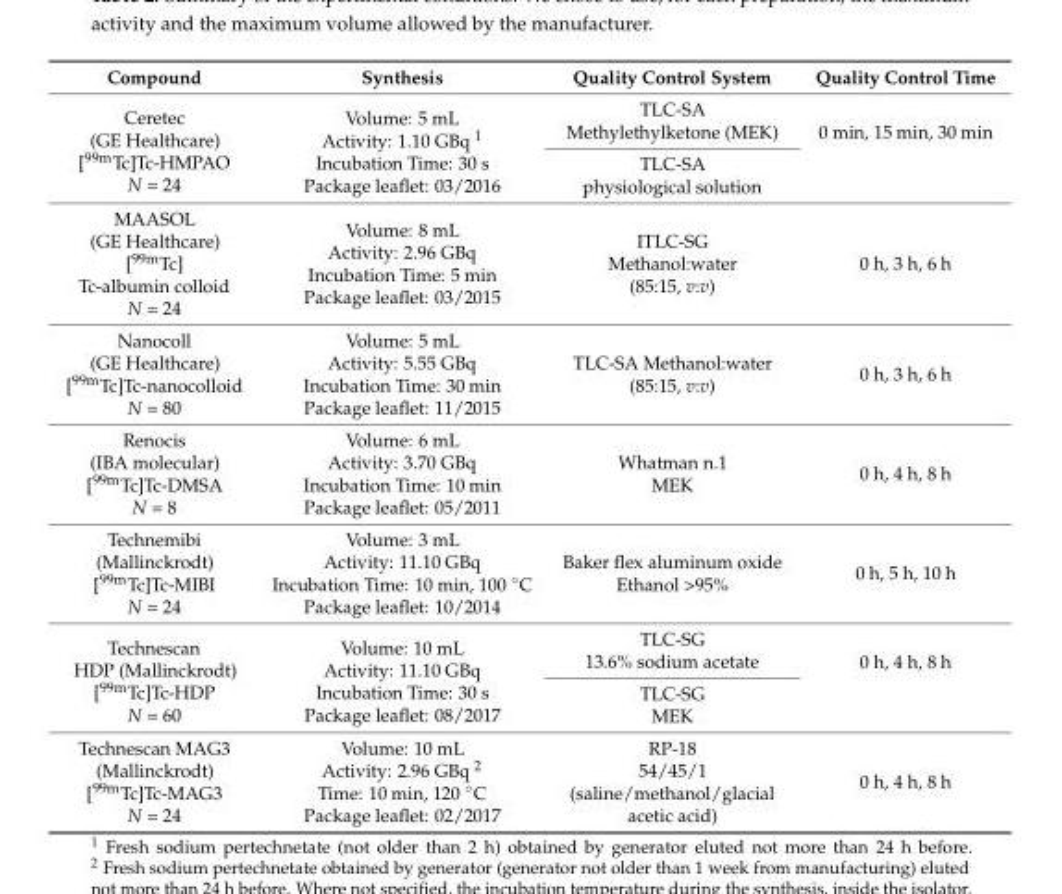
<table><thead><tr><td>Compound</td><td>Synthesis</td><td>Quality Control System</td><td>Quality Control Time</td></tr></thead><tbody><tr><td rowspan="2">Ceretec (GE Healthcare) [<sup>99m</sup>Tc]Tc-HMPAO N = 24</td><td rowspan="2">Volume: 5 mL Activity: 1.10 GBq <sup>1</sup> Incubation Time: 30 s Package leaflet: 03/2016</td><td>TLC-SA Methylethylketone (MEK)</td><td rowspan="2">0 min, 15 min, 30 min</td></tr><tr><td>TLC-SA physiological solution</td></tr><tr><td>MAASOL (GE Healthcare) [<sup>99m</sup>Tc] Tc-albumin colloid N = 24</td><td>Volume: 8 mL Activity: 2.96 GBq Incubation Time: 5 min Package leaflet: 03/2015</td><td>ITLC-SG Methanol:water (85:15, v:v)</td><td>0 h, 3 h, 6 h</td></tr><tr><td>Nanocoll (GE Healthcare) [<sup>99m</sup>Tc]Tc-nanocolloid N = 80</td><td>Volume: 5 mL Activity: 5.55 GBq Incubation Time: 30 min Package leaflet: 11/2015</td><td>TLC-SA Methanol:water (85:15, v:v)</td><td>0 h, 3 h, 6 h</td></tr><tr><td>Renocis (IBA molecular) [<sup>99m</sup>Tc]Tc-DMSA N = 8</td><td>Volume: 6 mL Activity: 3.70 GBq Incubation Time: 10 min Package leaflet: 05/2011</td><td>Whatman n.1 MEK</td><td>0 h, 4 h, 8 h</td></tr><tr><td>Technemibi (Mallinckrodt) [<sup>99m</sup>Tc]Tc-MIBI N = 24</td><td>Volume: 3 mL Activity: 11.10 GBq Incubation Time: 10 min, 100 ◦C Package leaflet: 10/2014</td><td>Baker flex aluminum oxide Ethanol &gt;95%</td><td>0 h, 5 h, 10 h</td></tr><tr><td rowspan="2">Technescan HDP (Mallinckrodt) [<sup>99m</sup>Tc]Tc-HDP N = 60</td><td rowspan="2">Volume: 10 mL Activity: 11.10 GBq Incubation Time: 30 s Package leaflet: 08/2017</td><td>TLC-SG 13.6% sodium acetate</td><td rowspan="2">0 h, 4 h, 8 h</td></tr><tr><td>TLC-SG MEK</td></tr><tr><td>Technescan MAG3 (Mallinckrodt) [<sup>99m</sup>Tc]Tc-MAG3 N = 24</td><td>Volume: 10 mL Activity: 2.96 GBq 2 Time: 10 min, 120 ◦C Package leaflet: 02/2017</td><td>RP-18 54/45/1 (saline/methanol/glacial acetic acid)</td><td>0 h, 4 h, 8 h</td></tr></tbody></table>